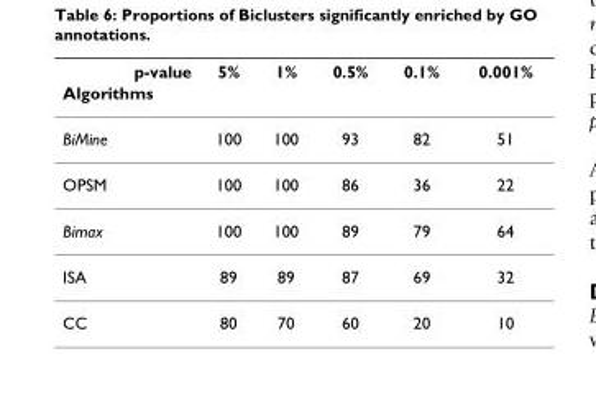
<table><thead><tr><td rowspan="2">p-value Algorithms</td><td rowspan="2">5%</td><td rowspan="2">1%</td><td rowspan="2">0.5%</td><td rowspan="2">0.1%</td><td rowspan="2">0.001%</td></tr><tr></tr></thead><tbody><tr><td>BiMine</td><td>100</td><td>100</td><td>93</td><td>82</td><td>51</td></tr><tr><td>OPSM</td><td>100</td><td>100</td><td>86</td><td>36</td><td>22</td></tr><tr><td>Bimax</td><td>100</td><td>100</td><td>89</td><td>79</td><td>64</td></tr><tr><td>ISA</td><td>89</td><td>89</td><td>87</td><td>69</td><td>32</td></tr><tr><td>CC</td><td>80</td><td>70</td><td>60</td><td>20</td><td>10</td></tr></tbody></table>